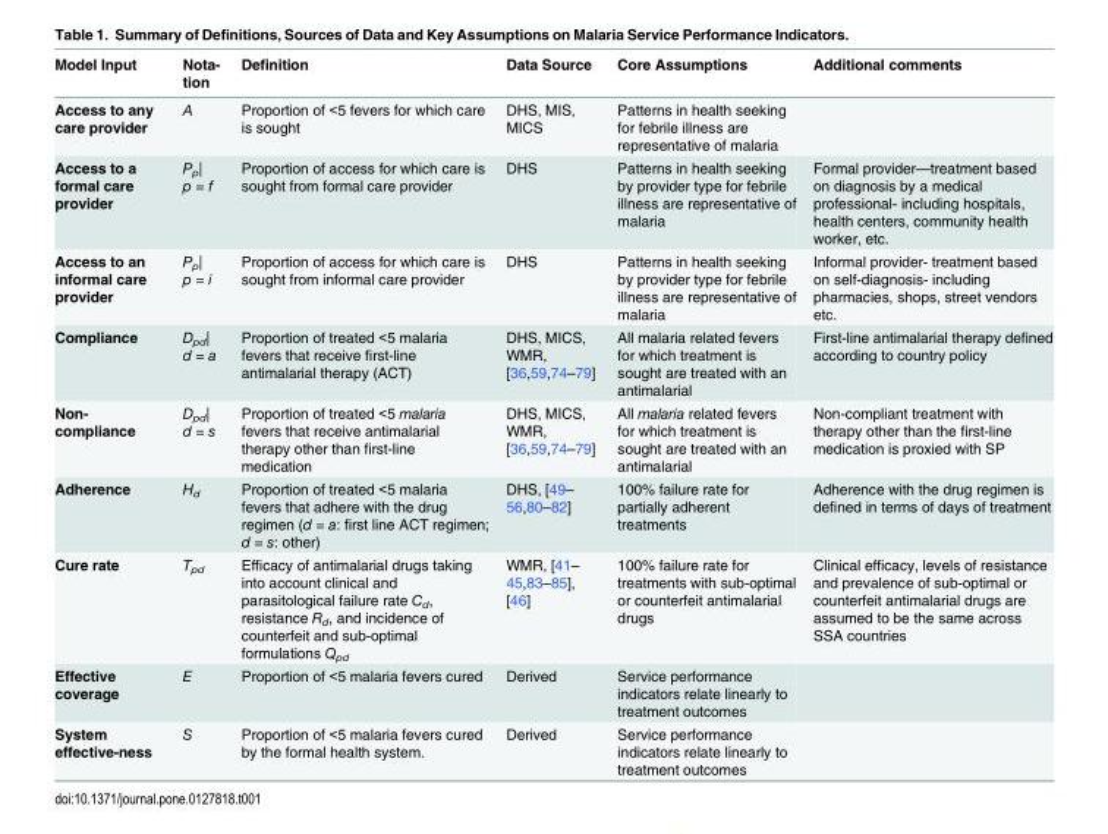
<table><thead><tr><td>Model Input</td><td>Nota- tion</td><td>Definition</td><td>Data Source</td><td>Core Assumptions</td><td>Additional comments</td></tr></thead><tbody><tr><td>Access to any care provider</td><td>A</td><td>Proportion of &lt;5 fevers for which care is sought</td><td>DHS, MIS, MICS</td><td>Patterns in health seeking for febrile illness are representative of malaria</td><td></td></tr><tr><td>Access to a formal care provider</td><td>P<sub>p</sub>| p = f</td><td>Proportion of access for which care is sought from formal care provider</td><td>DHS</td><td>Patterns in health seeking by provider type for febrile illness are representative of malaria</td><td>Formal provider—treatment based on diagnosis by a medical professional- including hospitals, health centers, community health worker, etc.</td></tr><tr><td>Access to an informal care provider</td><td>P<sub>p</sub>| p = i</td><td>Proportion of access for which care is sought from informal care provider</td><td>DHS</td><td>Patterns in health seeking by provider type for febrile illness are representative of malaria</td><td>Informal provider- treatment based on self-diagnosis- including pharmacies, shops, street vendors etc.</td></tr><tr><td>Compliance</td><td>D<sub>pd</sub>| d = a</td><td>Proportion of treated &lt;5 malaria fevers that receive first-line antimalarial therapy (ACT)</td><td>DHS, MICS, WMR, [36,59,74–79]</td><td>All malaria related fevers for which treatment is sought are treated with an antimalarial</td><td>First-line antimalarial therapy defined according to country policy</td></tr><tr><td>Non- compliance</td><td>D<sub>pd</sub>| d = s</td><td>Proportion of treated &lt;5 malaria fevers that receive antimalarial therapy other than first-line medication</td><td>DHS, MICS, WMR, [36,59,74–79]</td><td>All malaria related fevers for which treatment is sought are treated with an antimalarial</td><td>Non-compliant treatment with therapy other than the first-line medication is proxied with SP</td></tr><tr><td>Adherence</td><td>H<sub>d</sub></td><td>Proportion of treated &lt;5 malaria fevers that adhere with the drug regimen (d = a: first line ACT regimen; d = s: other)</td><td>DHS, [49– 56,80–82]</td><td>100% failure rate for partially adherent treatments</td><td>Adherence with the drug regimen is defined in terms of days of treatment</td></tr><tr><td>Cure rate</td><td>T<sub>pd</sub></td><td>Efficacy of antimalarial drugs taking into account clinical and parasitological failure rate C<sub>d</sub>, resistance R<sub>d</sub>, and incidence of counterfeit and sub-optimal formulations Q<sub>pd</sub></td><td>WMR, [41– 45,83–85], [46]</td><td>100% failure rate for treatments with sub-optimal or counterfeit antimalarial drugs</td><td>Clinical efficacy, levels of resistance and prevalence of sub-optimal or counterfeit antimalarial drugs are assumed to be the same across SSA countries</td></tr><tr><td>Effective coverage</td><td>E</td><td>Proportion of &lt;5 malaria fevers cured</td><td>Derived</td><td>Service performance indicators relate linearly to treatment outcomes</td><td></td></tr><tr><td>System effective-ness</td><td>S</td><td>Proportion of &lt;5 malaria fevers cured by the formal health system.</td><td>Derived</td><td>Service performance indicators relate linearly to treatment outcomes</td><td></td></tr></tbody></table>